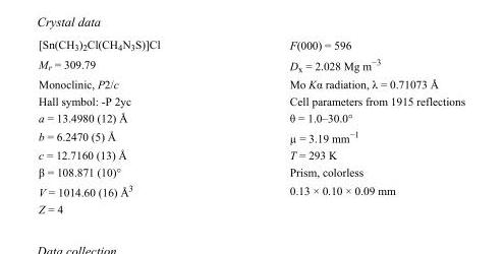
<table><tbody><tr><td>[Sn(CH<sub>3</sub>)<sub>2</sub>Cl(CH<sub>4</sub>N<sub>3</sub>S)]Cl</td><td>F(000) = 596</td></tr><tr><td>M<sub>r</sub> = 309.79</td><td>D<sub>x</sub> = 2.028 Mg m<sup>−3</sup></td></tr><tr><td>Monoclinic, P2/c</td><td>Mo Kα radiation, λ = 0.71073 Å</td></tr><tr><td>Hall symbol: -P 2yc</td><td>Cell parameters from 1915 reflections</td></tr><tr><td>a = 13.4980 (12) Å</td><td>θ = 1.0–30.0°</td></tr><tr><td>b = 6.2470 (5) Å</td><td>µ = 3.19 mm<sup>−1</sup></td></tr><tr><td>c = 12.7160 (13) Å</td><td>T = 293 K</td></tr><tr><td>β = 108.871 (10)°</td><td>Prism, colorless</td></tr><tr><td>V = 1014.60 (16) Å<sup>3</sup></td><td>0.13 × 0.10 × 0.09 mm</td></tr><tr><td>Z = 4</td><td></td></tr></tbody></table>